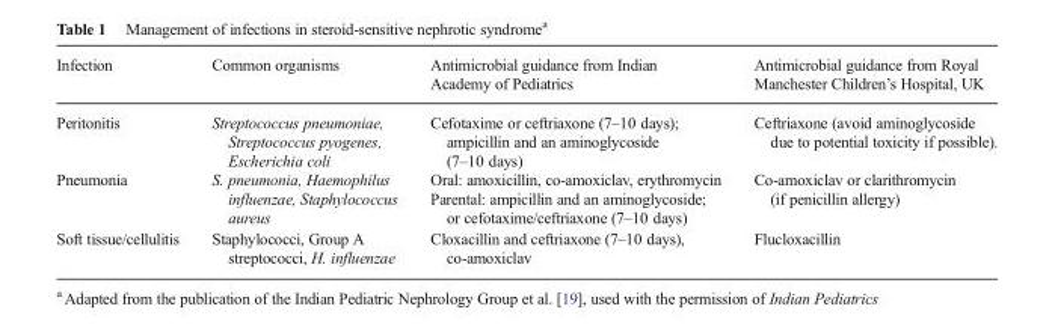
<table><thead><tr><td>Infection</td><td>Common organisms</td><td>Antimicrobial guidance from Indian Academy of Pediatrics</td><td>Antimicrobial guidance from Royal Manchester Children’s Hospital, UK</td></tr></thead><tbody><tr><td>Peritonitis</td><td>Streptococcus pneumoniae, Streptococcus pyogenes, Escherichia coli</td><td>Cefotaxime or ceftriaxone (7–10 days); ampicillin and an aminoglycoside (7–10 days)</td><td>Ceftriaxone (avoid aminoglycoside due to potential toxicity if possible).</td></tr><tr><td>Pneumonia</td><td>S. pneumonia, Haemophilus influenzae, Staphylococcus aureus</td><td>Oral: amoxicillin, co-amoxiclav, erythromycin Parental: ampicillin and an aminoglycoside; or cefotaxime/ceftriaxone (7–10 days)</td><td>Co-amoxiclav or clarithromycin (if penicillin allergy)</td></tr><tr><td>Soft tissue/cellulitis</td><td>Staphylococci, Group A streptococci, H. influenzae</td><td>Cloxacillin and ceftriaxone (7–10 days), co-amoxiclav</td><td>Flucloxacillin</td></tr></tbody></table>